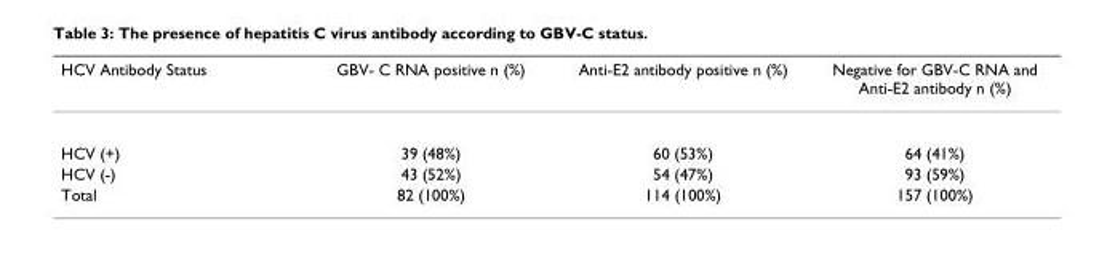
<table><thead><tr><td>HCV Antibody Status</td><td>GBV- C RNA positive n (%)</td><td>Anti-E2 antibody positive n (%)</td><td>Negative for GBV-C RNA and Anti-E2 antibody n (%)</td></tr></thead><tbody><tr><td>HCV (+)</td><td>39 (48%)</td><td>60 (53%)</td><td>64 (41%)</td></tr><tr><td>HCV (-)</td><td>43 (52%)</td><td>54 (47%)</td><td>93 (59%)</td></tr><tr><td>Total</td><td>82 (100%)</td><td>114 (100%)</td><td>157 (100%)</td></tr></tbody></table>